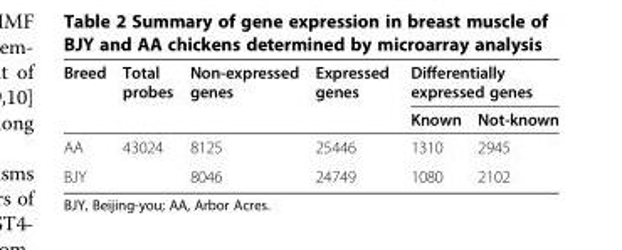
<table><thead><tr><td rowspan="2">Breed</td><td rowspan="2">Total probes</td><td rowspan="2">Non-expressed genes</td><td rowspan="2">Expressed genes</td><td colspan="2">Differentially expressed genes</td></tr><tr><td>Known</td><td>Not-known</td></tr></thead><tbody><tr><td>AA</td><td>43024</td><td>8125</td><td>25446</td><td>1310</td><td>2945</td></tr><tr><td>BJY</td><td></td><td>8046</td><td>24749</td><td>1080</td><td>2102</td></tr></tbody></table>